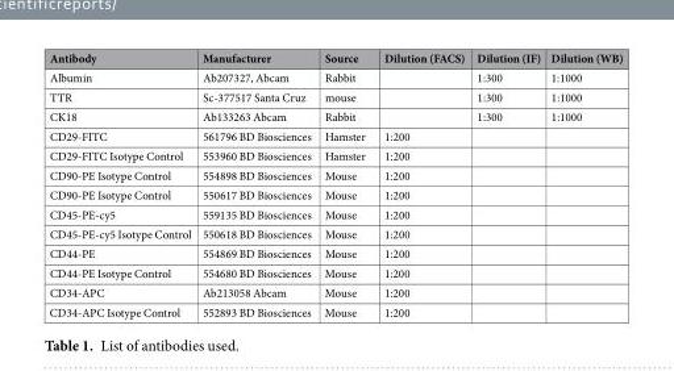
<table><thead><tr><td>Antibody</td><td>Manufacturer</td><td>Source</td><td>Dilution (FACS)</td><td>Dilution (IF)</td><td>Dilution (WB)</td></tr></thead><tbody><tr><td>Albumin</td><td>Ab207327, Abcam</td><td>Rabbit</td><td></td><td>1:300</td><td>1:1000</td></tr><tr><td>TTR</td><td>Sc-377517 Santa Cruz</td><td>mouse</td><td></td><td>1:300</td><td>1:1000</td></tr><tr><td>CK18</td><td>Ab133263 Abcam</td><td>Rabbit</td><td></td><td>1:300</td><td>1:1000</td></tr><tr><td>CD29-FITC</td><td>561796 BD Biosciences</td><td>Hamster</td><td>1:200</td><td></td><td></td></tr><tr><td>CD29-FITC Isotype Control</td><td>553960 BD Biosciences</td><td>Hamster</td><td>1:200</td><td></td><td></td></tr><tr><td>CD90-PE Isotype Control</td><td>554898 BD Biosciences</td><td>Mouse</td><td>1:200</td><td></td><td></td></tr><tr><td>CD90-PE Isotype Control</td><td>550617 BD Biosciences</td><td>Mouse</td><td>1:200</td><td></td><td></td></tr><tr><td>CD45-PE-cy5</td><td>559135 BD Biosciences</td><td>Mouse</td><td>1:200</td><td></td><td></td></tr><tr><td>CD45-PE-cy5 Isotype Control</td><td>550618 BD Biosciences</td><td>Mouse</td><td>1:200</td><td></td><td></td></tr><tr><td>CD44-PE</td><td>554869 BD Biosciences</td><td>Mouse</td><td>1:200</td><td></td><td></td></tr><tr><td>CD44-PE Isotype Control</td><td>554680 BD Biosciences</td><td>Mouse</td><td>1:200</td><td></td><td></td></tr><tr><td>CD34-APC</td><td>Ab213058 Abcam</td><td>Mouse</td><td>1:200</td><td></td><td></td></tr><tr><td>CD34-APC Isotype Control</td><td>552893 BD Biosciences</td><td>Mouse</td><td>1:200</td><td></td><td></td></tr></tbody></table>